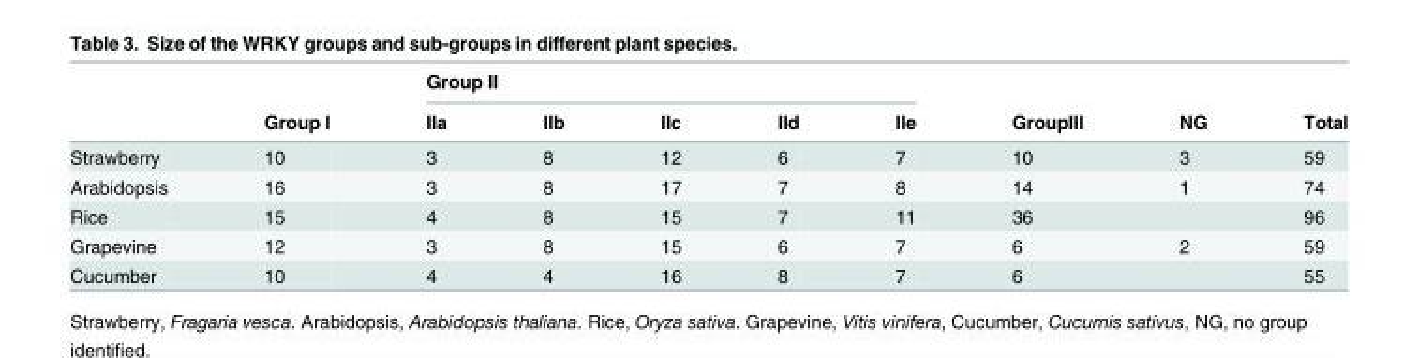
<table><thead><tr><td rowspan="2"></td><td rowspan="2">Group I</td><td colspan="5">Group II</td><td rowspan="2">GroupIII</td><td rowspan="2">NG</td><td rowspan="2">Total</td></tr><tr><td>IIa</td><td>IIb</td><td>IIc</td><td>IId</td><td>IIe</td></tr></thead><tbody><tr><td>Strawberry</td><td>10</td><td>3</td><td>8</td><td>12</td><td>6</td><td>7</td><td>10</td><td>3</td><td>59</td></tr><tr><td>Arabidopsis</td><td>16</td><td>3</td><td>8</td><td>17</td><td>7</td><td>8</td><td>14</td><td>1</td><td>74</td></tr><tr><td>Rice</td><td>15</td><td>4</td><td>8</td><td>15</td><td>7</td><td>11</td><td>36</td><td></td><td>96</td></tr><tr><td>Grapevine</td><td>12</td><td>3</td><td>8</td><td>15</td><td>6</td><td>7</td><td>6</td><td>2</td><td>59</td></tr><tr><td>Cucumber</td><td>10</td><td>4</td><td>4</td><td>16</td><td>8</td><td>7</td><td>6</td><td></td><td>55</td></tr></tbody></table>